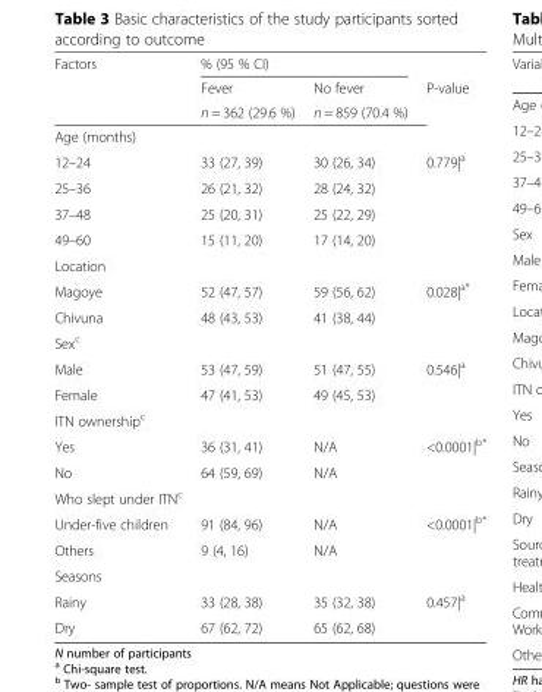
<table><thead><tr><td rowspan="3">Factors</td><td colspan="2">% (95 % CI)</td><td rowspan="3">P-value</td></tr><tr><td rowspan="2">Fever n = 362 (29.6 %)</td><td rowspan="2">No fever n = 859 (70.4 %)</td></tr><tr></tr></thead><tbody><tr><td colspan="4">Age (months)</td></tr><tr><td>12–24</td><td>33 (27, 39)</td><td>30 (26, 34)</td><td>0.779|<sup>a</sup></td></tr><tr><td>25–36</td><td>26 (21, 32)</td><td>28 (24, 32)</td><td></td></tr><tr><td>37–48</td><td>25 (20, 31)</td><td>25 (22, 29)</td><td></td></tr><tr><td>49–60</td><td>15 (11, 20)</td><td>17 (14, 20)</td><td></td></tr><tr><td colspan="4">Location</td></tr><tr><td>Magoye</td><td>52 (47, 57)</td><td>59 (56, 62)</td><td>0.028|<sup>a*</sup></td></tr><tr><td>Chivuna</td><td>48 (43, 53)</td><td>41 (38, 44)</td><td></td></tr><tr><td colspan="4">Sex<sup>c</sup></td></tr><tr><td>Male</td><td>53 (47, 59)</td><td>51 (47, 55)</td><td>0.546|<sup>a</sup></td></tr><tr><td>Female</td><td>47 (41, 53)</td><td>49 (45, 53)</td><td></td></tr><tr><td colspan="4">ITN ownership<sup>c</sup></td></tr><tr><td>Yes</td><td>36 (31, 41)</td><td>N/A</td><td>&lt;0.0001|<sup>b*</sup></td></tr><tr><td>No</td><td>64 (59, 69)</td><td>N/A</td><td></td></tr><tr><td colspan="4">Who slept under ITN<sup>c</sup></td></tr><tr><td>Under-five children</td><td>91 (84, 96)</td><td>N/A</td><td>&lt;0.0001|<sup>b*</sup></td></tr><tr><td>Others</td><td>9 (4, 16)</td><td>N/A</td><td></td></tr><tr><td colspan="4">Seasons</td></tr><tr><td>Rainy</td><td>33 (28, 38)</td><td>35 (32, 38)</td><td>0.457|<sup>a</sup></td></tr><tr><td>Dry</td><td>67 (62, 72)</td><td>65 (62, 68)</td><td></td></tr></tbody></table>